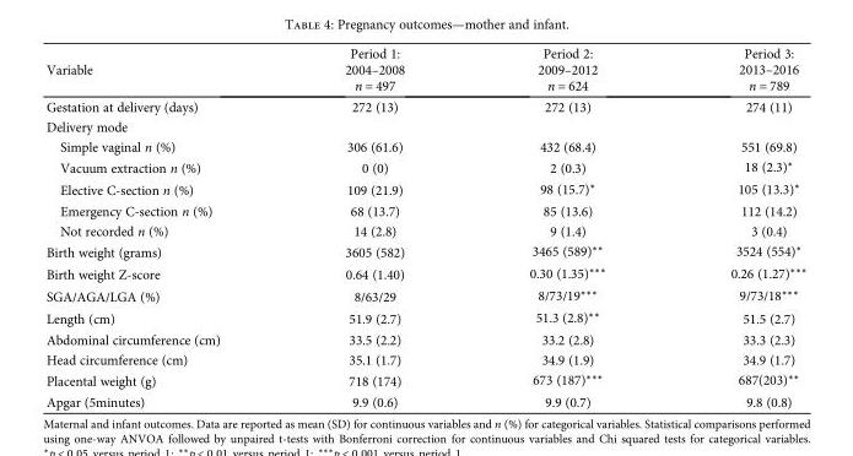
<table><thead><tr><td>Variable</td><td>Period 1: 2004–2008 n = 497</td><td>Period 2: 2009–2012 n = 624</td><td>Period 3: 2013–2016 n = 789</td></tr></thead><tbody><tr><td>Gestation at delivery (days)</td><td>272 (13)</td><td>272 (13)</td><td>274 (11)</td></tr><tr><td colspan="4">Delivery mode</td></tr><tr><td>Simple vaginal n (%)</td><td>306 (61.6)</td><td>432 (68.4)</td><td>551 (69.8)</td></tr><tr><td>Vacuum extraction n (%)</td><td>0 (0)</td><td>2 (0.3)</td><td>18 (2.3)∗</td></tr><tr><td>Elective C-section n (%)</td><td>109 (21.9)</td><td>98 (15.7)∗</td><td>105 (13.3)∗</td></tr><tr><td>Emergency C-section n (%)</td><td>68 (13.7)</td><td>85 (13.6)</td><td>112 (14.2)</td></tr><tr><td>Not recorded n (%)</td><td>14 (2.8)</td><td>9 (1.4)</td><td>3 (0.4)</td></tr><tr><td>Birth weight (grams)</td><td>3605 (582)</td><td>3465 (589)∗∗</td><td>3524 (554)∗</td></tr><tr><td>Birth weight Z-score</td><td>0.64 (1.40)</td><td>0.30 (1.35)∗∗∗</td><td>0.26 (1.27)∗∗∗</td></tr><tr><td>SGA/AGA/LGA (%)</td><td>8/63/29</td><td>8/73/19∗∗∗</td><td>9/73/18∗∗∗</td></tr><tr><td>Length (cm)</td><td>51.9 (2.7)</td><td>51.3 (2.8)∗∗</td><td>51.5 (2.7)</td></tr><tr><td>Abdominal circumference (cm)</td><td>33.5 (2.2)</td><td>33.2 (2.8)</td><td>33.3 (2.3)</td></tr><tr><td>Head circumference (cm)</td><td>35.1 (1.7)</td><td>34.9 (1.9)</td><td>34.9 (1.7)</td></tr><tr><td>Placental weight (g)</td><td>718 (174)</td><td>673 (187)∗∗∗</td><td>687(203)∗∗</td></tr><tr><td>Apgar (5minutes)</td><td>9.9 (0.6)</td><td>9.9 (0.7)</td><td>9.8 (0.8)</td></tr></tbody></table>